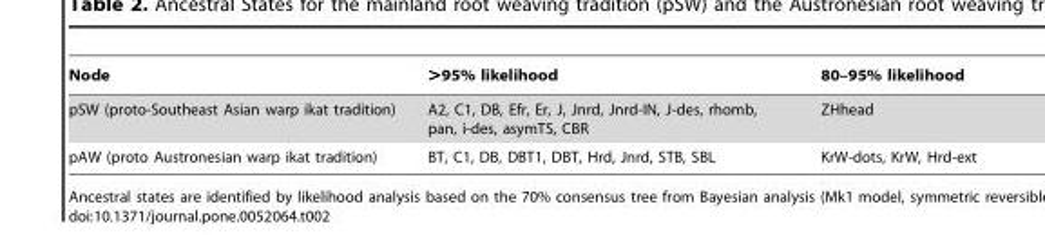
<table><thead><tr><td>Node</td><td>&gt;95% likelihood</td><td>80–95% likelihood</td></tr></thead><tbody><tr><td>pSW (proto-Southeast Asian warp ikat tradition)</td><td>A2, C1, DB, Efr, Er, J, Jnrd, Jnrd-IN, J-des, rhomb, pan, i-des, asymTS, CBR</td><td>ZHhead</td></tr><tr><td>pAW (proto Austronesian warp ikat tradition)</td><td>BT, C1, DB, DBT1, DBT, Hrd, Jnrd, STB, SBL</td><td>KrW-dots, KrW, Hrd-ext</td></tr></tbody></table>